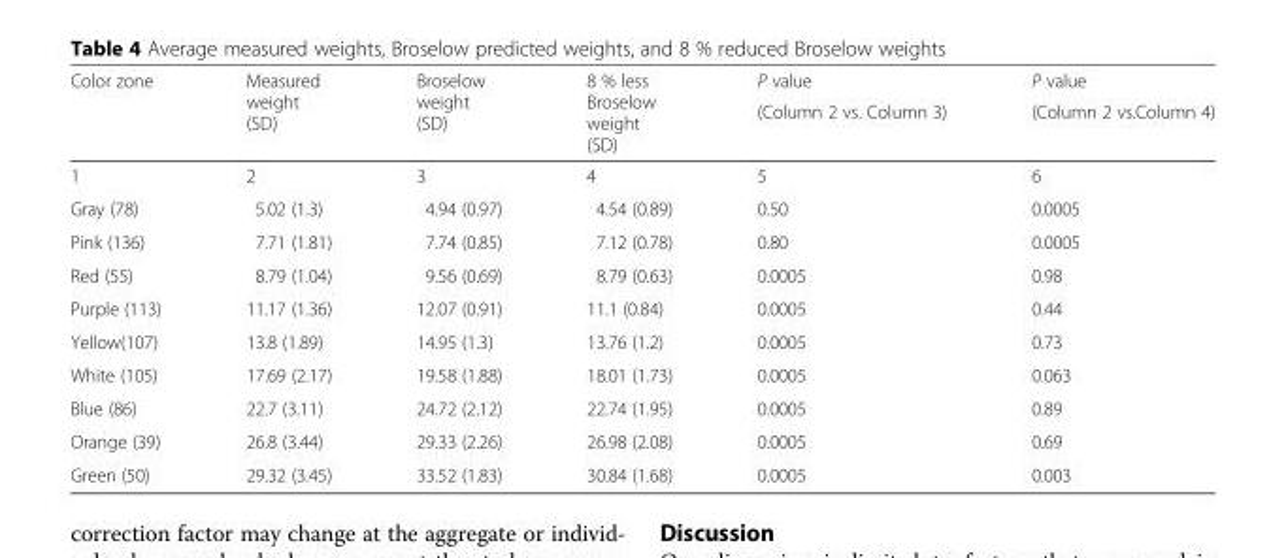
<table><thead><tr><td rowspan="2">Color zone</td><td rowspan="2">Measured weight (SD)</td><td rowspan="2">Broselow weight (SD)</td><td rowspan="2">8 % less Broselow weight (SD)</td><td rowspan="2">P value (Column 2 vs. Column 3)</td><td rowspan="2">P value (Column 2 vs.Column 4)</td></tr><tr></tr></thead><tbody><tr><td>1</td><td>2</td><td>3</td><td>4</td><td>5</td><td>6</td></tr><tr><td>Gray (78)</td><td>5.02 (1.3)</td><td>4.94 (0.97)</td><td>4.54 (0.89)</td><td>0.50</td><td>0.0005</td></tr><tr><td>Pink (136)</td><td>7.71 (1.81)</td><td>7.74 (0.85)</td><td>7.12 (0.78)</td><td>0.80</td><td>0.0005</td></tr><tr><td>Red (55)</td><td>8.79 (1.04)</td><td>9.56 (0.69)</td><td>8.79 (0.63)</td><td>0.0005</td><td>0.98</td></tr><tr><td>Purple (113)</td><td>11.17 (1.36)</td><td>12.07 (0.91)</td><td>11.1 (0.84)</td><td>0.0005</td><td>0.44</td></tr><tr><td>Yellow(107)</td><td>13.8 (1.89)</td><td>14.95 (1.3)</td><td>13.76 (1.2)</td><td>0.0005</td><td>0.73</td></tr><tr><td>White (105)</td><td>17.69 (2.17)</td><td>19.58 (1.88)</td><td>18.01 (1.73)</td><td>0.0005</td><td>0.063</td></tr><tr><td>Blue (86)</td><td>22.7 (3.11)</td><td>24.72 (2.12)</td><td>22.74 (1.95)</td><td>0.0005</td><td>0.89</td></tr><tr><td>Orange (39)</td><td>26.8 (3.44)</td><td>29.33 (2.26)</td><td>26.98 (2.08)</td><td>0.0005</td><td>0.69</td></tr><tr><td>Green (50)</td><td>29.32 (3.45)</td><td>33.52 (1.83)</td><td>30.84 (1.68)</td><td>0.0005</td><td>0.003</td></tr></tbody></table>